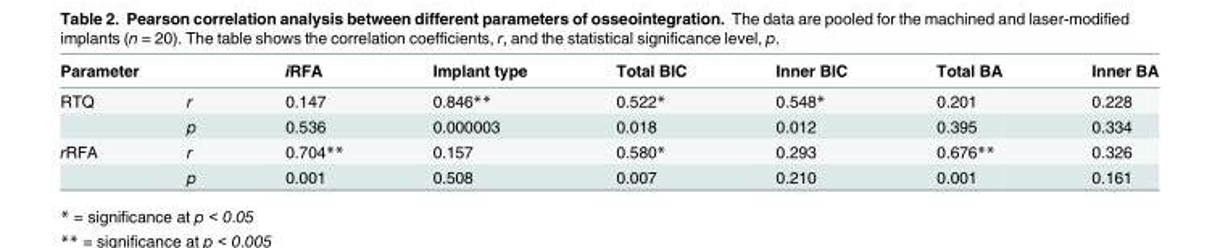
<table><thead><tr><td colspan="2">Parameter</td><td rowspan="2">iRFA 0.147</td><td rowspan="2">Implant type 0.846**</td><td rowspan="2">Total BIC 0.522*</td><td rowspan="2">Inner BIC 0.548*</td><td rowspan="2">Total BA 0.201</td><td rowspan="2">Inner BA 0.228</td></tr><tr><td>RTQ</td><td>r</td></tr></thead><tbody><tr><td></td><td>p</td><td>0.536</td><td>0.000003</td><td>0.018</td><td>0.012</td><td>0.395</td><td>0.334</td></tr><tr><td rowspan="2">rRFA</td><td>r</td><td>0.704**</td><td>0.157</td><td>0.580*</td><td>0.293</td><td>0.676**</td><td>0.326</td></tr><tr><td>p</td><td>0.001</td><td>0.508</td><td>0.007</td><td>0.210</td><td>0.001</td><td>0.161</td></tr></tbody></table>